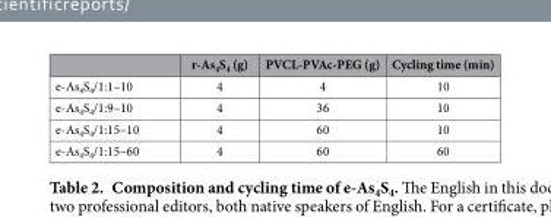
<table><thead><tr><td></td><td>r-As<sub>4</sub>S<sub>4</sub> (g)</td><td>PVCL-PVAc-PEG (g)</td><td>Cycling time (min)</td></tr></thead><tbody><tr><td>e-As<sub>4</sub>S<sub>4</sub>/1:1–10</td><td>4</td><td>4</td><td>10</td></tr><tr><td>e-As<sub>4</sub>S<sub>4</sub>/1:9–10</td><td>4</td><td>36</td><td>10</td></tr><tr><td>e-As<sub>4</sub>S<sub>4</sub>/1:15–10</td><td>4</td><td>60</td><td>10</td></tr><tr><td>e-As<sub>4</sub>S<sub>4</sub>/1:15–60</td><td>4</td><td>60</td><td>60</td></tr></tbody></table>